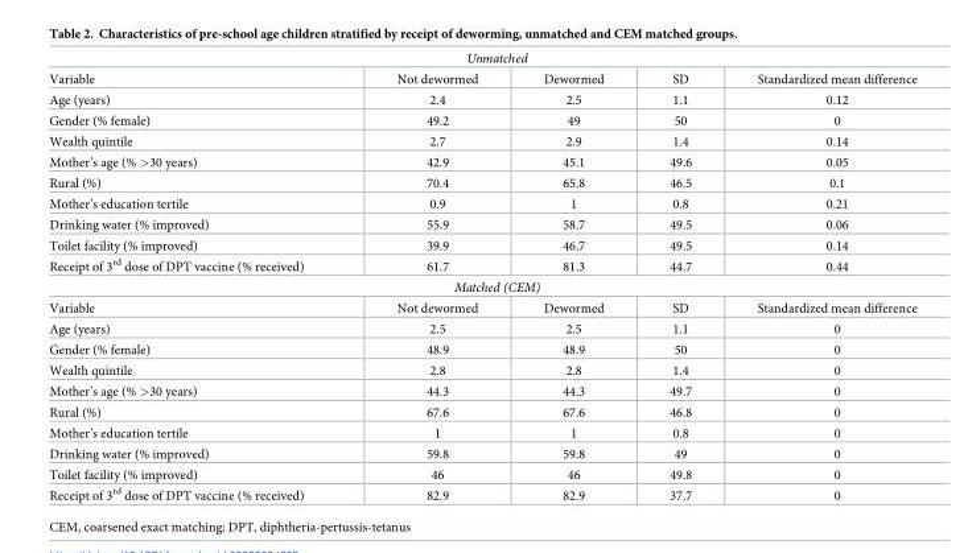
<table><tbody><tr><td colspan="5">Unmatched</td></tr><tr><td>Variable</td><td>Not dewormed</td><td>Dewormed</td><td>SD</td><td>Standardized mean difference</td></tr><tr><td>Age (years)</td><td>2.4</td><td>2.5</td><td>1.1</td><td>0.12</td></tr><tr><td>Gender (% female)</td><td>49.2</td><td>49</td><td>50</td><td>0</td></tr><tr><td>Wealth quintile</td><td>2.7</td><td>2.9</td><td>1.4</td><td>0.14</td></tr><tr><td>Mother’s age (% &gt;30 years)</td><td>42.9</td><td>45.1</td><td>49.6</td><td>0.05</td></tr><tr><td>Rural (%)</td><td>70.4</td><td>65.8</td><td>46.5</td><td>0.1</td></tr><tr><td>Mother’s education tertile</td><td>0.9</td><td>1</td><td>0.8</td><td>0.21</td></tr><tr><td>Drinking water (% improved)</td><td>55.9</td><td>58.7</td><td>49.5</td><td>0.06</td></tr><tr><td>Toilet facility (% improved)</td><td>39.9</td><td>46.7</td><td>49.5</td><td>0.14</td></tr><tr><td>Receipt of 3<sup>rd</sup> dose of DPT vaccine (% received)</td><td>61.7</td><td>81.3</td><td>44.7</td><td>0.44</td></tr><tr><td colspan="5">Matched (CEM)</td></tr><tr><td>Variable</td><td>Not dewormed</td><td>Dewormed</td><td>SD</td><td>Standardized mean difference</td></tr><tr><td>Age (years)</td><td>2.5</td><td>2.5</td><td>1.1</td><td>0</td></tr><tr><td>Gender (% female)</td><td>48.9</td><td>48.9</td><td>50</td><td>0</td></tr><tr><td>Wealth quintile</td><td>2.8</td><td>2.8</td><td>1.4</td><td>0</td></tr><tr><td>Mother’s age (% &gt;30 years)</td><td>44.3</td><td>44.3</td><td>49.7</td><td>0</td></tr><tr><td>Rural (%)</td><td>67.6</td><td>67.6</td><td>46.8</td><td>0</td></tr><tr><td>Mother’s education tertile</td><td>1</td><td>1</td><td>0.8</td><td>0</td></tr><tr><td>Drinking water (% improved)</td><td>59.8</td><td>59.8</td><td>49</td><td>0</td></tr><tr><td>Toilet facility (% improved)</td><td>46</td><td>46</td><td>49.8</td><td>0</td></tr><tr><td>Receipt of 3<sup>rd</sup> dose of DPT vaccine (% received)</td><td>82.9</td><td>82.9</td><td>37.7</td><td>0</td></tr></tbody></table>